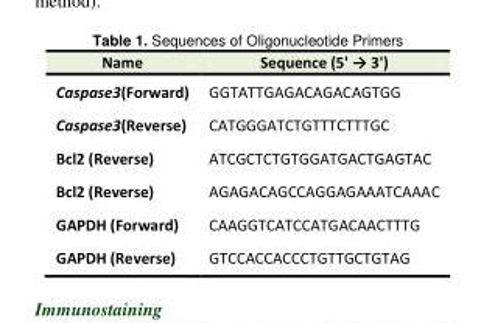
<table><tbody><tr><td>Name</td><td>Sequence (5&#x27; → 3&#x27;)</td></tr><tr><td>Caspase3(Forward)</td><td>GGTATTGAGACAGACAGTGG</td></tr><tr><td>Caspase3(Reverse)</td><td>CATGGGATCTGTTTCTTTGC</td></tr><tr><td>Bcl2 (Reverse)</td><td>ATCGCTCTGTGGATGACTGAGTAC</td></tr><tr><td>Bcl2 (Reverse)</td><td>AGAGACAGCCAGGAGAAATCAAAC</td></tr><tr><td>GAPDH (Forward)</td><td>CAAGGTCATCCATGACAACTTTG</td></tr><tr><td>GAPDH (Reverse)</td><td>GTCCACCACCCTGTTGCTGTAG</td></tr></tbody></table>